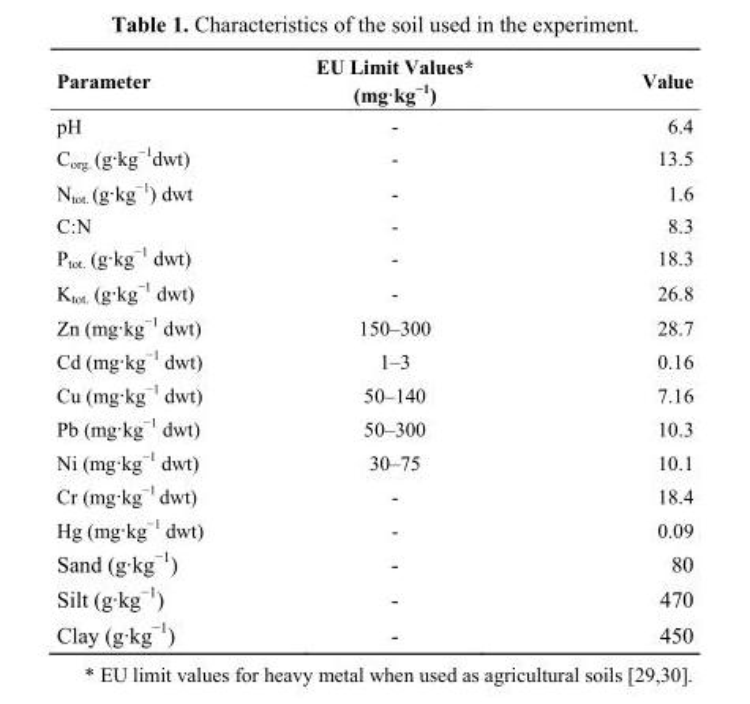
<table><thead><tr><td>Parameter</td><td>EU Limit Values* (mg·kg<sup>−1</sup>)</td><td>Value</td></tr></thead><tbody><tr><td>pH</td><td>-</td><td>6.4</td></tr><tr><td>C<sub>org.</sub> (g·kg<sup>−1</sup>dwt)</td><td>-</td><td>13.5</td></tr><tr><td>N<sub>tot.</sub> (g·kg<sup>−1</sup>) dwt</td><td>-</td><td>1.6</td></tr><tr><td>C:N</td><td>-</td><td>8.3</td></tr><tr><td>P<sub>tot.</sub> (g·kg<sup>−1</sup> dwt)</td><td>-</td><td>18.3</td></tr><tr><td>K<sub>tot.</sub> (g·kg<sup>−1</sup> dwt)</td><td>-</td><td>26.8</td></tr><tr><td>Zn (mg·kg<sup>−1</sup> dwt)</td><td>150–300</td><td>28.7</td></tr><tr><td>Cd (mg·kg<sup>−1</sup> dwt)</td><td>1–3</td><td>0.16</td></tr><tr><td>Cu (mg·kg<sup>−1</sup> dwt)</td><td>50–140</td><td>7.16</td></tr><tr><td>Pb (mg·kg<sup>−1</sup> dwt)</td><td>50–300</td><td>10.3</td></tr><tr><td>Ni (mg·kg<sup>−1</sup> dwt)</td><td>30–75</td><td>10.1</td></tr><tr><td>Cr (mg·kg<sup>−1</sup> dwt)</td><td>-</td><td>18.4</td></tr><tr><td>Hg (mg·kg<sup>−1</sup> dwt)</td><td>-</td><td>0.09</td></tr><tr><td>Sand (g·kg<sup>−1</sup>)</td><td>-</td><td>80</td></tr><tr><td>Silt (g·kg<sup>−1</sup>)</td><td>-</td><td>470</td></tr><tr><td>Clay (g·kg<sup>−1</sup>)</td><td>-</td><td>450</td></tr></tbody></table>